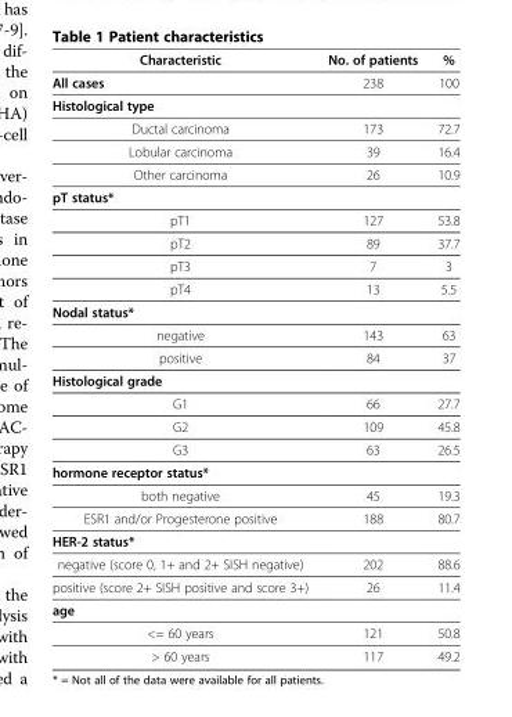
<table><thead><tr><td>Characteristic</td><td>No. of patients</td><td>%</td></tr></thead><tbody><tr><td>All cases</td><td>238</td><td>100</td></tr><tr><td colspan="3">Histological type</td></tr><tr><td>Ductal carcinoma</td><td>173</td><td>72.7</td></tr><tr><td>Lobular carcinoma</td><td>39</td><td>16.4</td></tr><tr><td>Other carcinoma</td><td>26</td><td>10.9</td></tr><tr><td colspan="3">pT status*</td></tr><tr><td>pT1</td><td>127</td><td>53.8</td></tr><tr><td>pT2</td><td>89</td><td>37.7</td></tr><tr><td>pT3</td><td>7</td><td>3</td></tr><tr><td>pT4</td><td>13</td><td>5.5</td></tr><tr><td colspan="3">Nodal status*</td></tr><tr><td>negative</td><td>143</td><td>63</td></tr><tr><td>positive</td><td>84</td><td>37</td></tr><tr><td colspan="3">Histological grade</td></tr><tr><td>G1</td><td>66</td><td>27.7</td></tr><tr><td>G2</td><td>109</td><td>45.8</td></tr><tr><td>G3</td><td>63</td><td>26.5</td></tr><tr><td colspan="3">hormone receptor status*</td></tr><tr><td>both negative</td><td>45</td><td>19.3</td></tr><tr><td>ESR1 and/or Progesterone positive</td><td>188</td><td>80.7</td></tr><tr><td colspan="3">HER-2 status*</td></tr><tr><td>negative (score 0, 1+ and 2+ SISH negative)</td><td>202</td><td>88.6</td></tr><tr><td>positive (score 2+ SISH positive and score 3+)</td><td>26</td><td>11.4</td></tr><tr><td colspan="3">age</td></tr><tr><td>&lt;= 60 years</td><td>121</td><td>50.8</td></tr><tr><td>&gt; 60 years</td><td>117</td><td>49.2</td></tr></tbody></table>